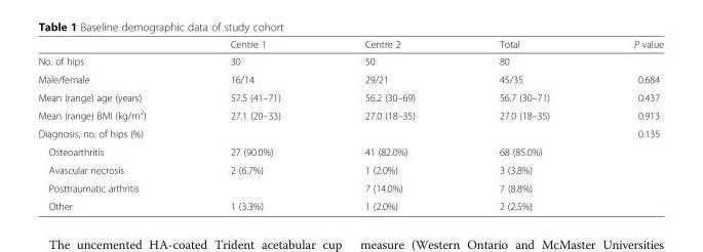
<table><thead><tr><td></td><td>Centre 1</td><td>Centre 2</td><td>Total</td><td>P value</td></tr></thead><tbody><tr><td>No. of hips</td><td>30</td><td>50</td><td>80</td><td></td></tr><tr><td>Male/female</td><td>16/14</td><td>29/21</td><td>45/35</td><td>0.684</td></tr><tr><td>Mean (range) age (years)</td><td>57.5 (41–71)</td><td>56.2 (30–69)</td><td>56.7 (30–71)</td><td>0.437</td></tr><tr><td>Mean (range) BMI (kg/m<sup>2</sup>)</td><td>27.1 (20–33)</td><td>27.0 (18–35)</td><td>27.0 (18–35)</td><td>0.913</td></tr><tr><td>Diagnosis, no. of hips (%)</td><td></td><td></td><td></td><td>0.135</td></tr><tr><td>Osteoarthritis</td><td>27 (90.0%)</td><td>41 (82.0%)</td><td>68 (85.0%)</td><td></td></tr><tr><td>Avascular necrosis</td><td>2 (6.7%)</td><td>1 (2.0%)</td><td>3 (3.8%)</td><td></td></tr><tr><td>Posttraumatic arthritis</td><td></td><td>7 (14.0%)</td><td>7 (8.8%)</td><td></td></tr><tr><td>Other</td><td>1 (3.3%)</td><td>1 (2.0%)</td><td>2 (2.5%)</td><td></td></tr></tbody></table>